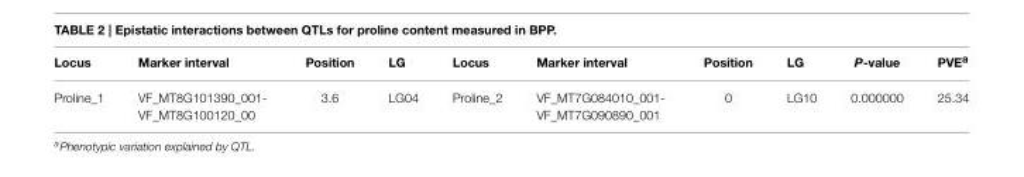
<table><thead><tr><td>Locus</td><td>Marker interval</td><td>Position</td><td>LG</td><td>Locus</td><td>Marker interval</td><td>Position</td><td>LG</td><td>P-value</td><td>PVE<sup>a</sup></td></tr></thead><tbody><tr><td>Proline_1</td><td>VF_MT8G101390_001- VF_MT8G100120_00</td><td>3.6</td><td>LG04</td><td>Proline_2</td><td>VF_MT7G084010_001- VF_MT7G090890_001</td><td>0</td><td>LG10</td><td>0.000000</td><td>25.34</td></tr></tbody></table>